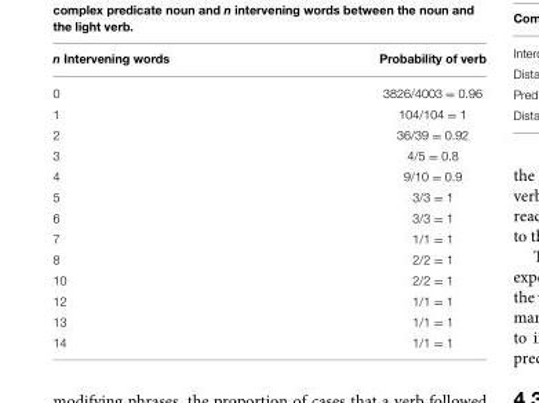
<table><thead><tr><td>n Intervening words</td><td>Probability of verb</td></tr></thead><tbody><tr><td>0</td><td>3826/4003 = 0.96</td></tr><tr><td>1</td><td>104/104 = 1</td></tr><tr><td>2</td><td>36/39 = 0.92</td></tr><tr><td>3</td><td>4/5 = 0.8</td></tr><tr><td>4</td><td>9/10 = 0.9</td></tr><tr><td>5</td><td>3/3 = 1</td></tr><tr><td>6</td><td>3/3 = 1</td></tr><tr><td>7</td><td>1/1 = 1</td></tr><tr><td>8</td><td>2/2 = 1</td></tr><tr><td>10</td><td>2/2 = 1</td></tr><tr><td>12</td><td>1/1 = 1</td></tr><tr><td>13</td><td>1/1 = 1</td></tr><tr><td>14</td><td>1/1 = 1</td></tr></tbody></table>